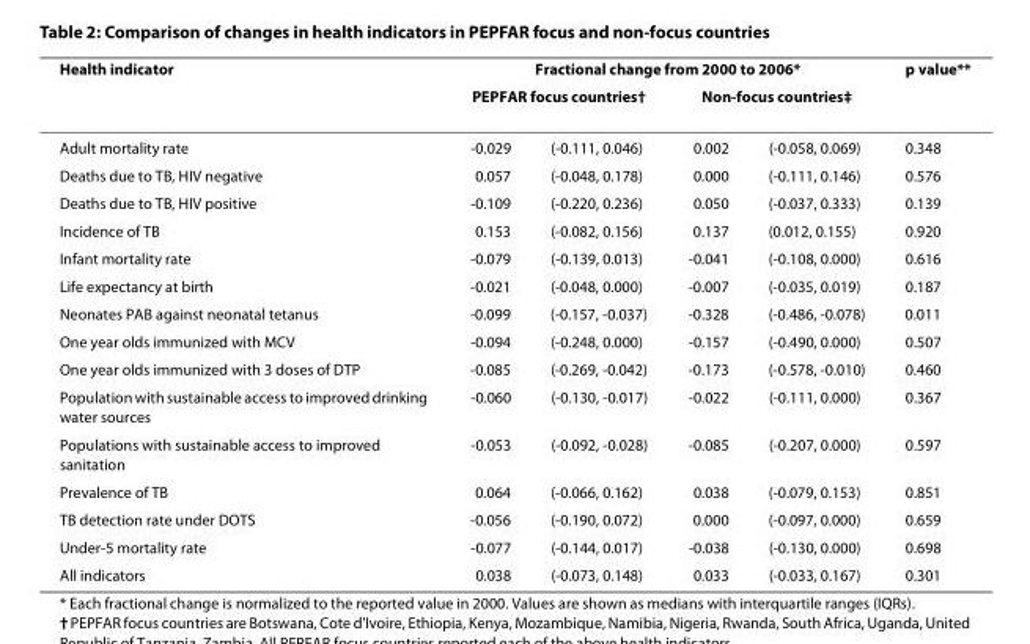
<table><thead><tr><td rowspan="3">Health indicator Adult mortality rate</td><td colspan="4">Fractional change from 2000 to 2006*</td><td rowspan="3">p value** 0.348</td></tr><tr><td colspan="2">PEPFAR focus countries†</td><td colspan="2">Non-focus countries‡</td></tr><tr><td>-0.029</td><td>(-0.111, 0.046)</td><td>0.002</td><td>(-0.058, 0.069)</td></tr></thead><tbody><tr><td>Deaths due to TB, HIV negative</td><td>0.057</td><td>(-0.048, 0.178)</td><td>0.000</td><td>(-0.111, 0.146)</td><td>0.576</td></tr><tr><td>Deaths due to TB, HIV positive</td><td>-0.109</td><td>(-0.220, 0.236)</td><td>0.050</td><td>(-0.037, 0.333)</td><td>0.139</td></tr><tr><td>Incidence of TB</td><td>0.153</td><td>(-0.082, 0.156)</td><td>0.137</td><td>(0.012, 0.155)</td><td>0.920</td></tr><tr><td>Infant mortality rate</td><td>-0.079</td><td>(-0.139, 0.013)</td><td>-0.041</td><td>(-0.108, 0.000)</td><td>0.616</td></tr><tr><td>Life expectancy at birth</td><td>-0.021</td><td>(-0.048, 0.000)</td><td>-0.007</td><td>(-0.035, 0.019)</td><td>0.187</td></tr><tr><td>Neonates PAB against neonatal tetanus</td><td>-0.099</td><td>(-0.157, -0.037)</td><td>-0.328</td><td>(-0.486, -0.078)</td><td>0.011</td></tr><tr><td>One year olds immunized with MCV</td><td>-0.094</td><td>(-0.248, 0.000)</td><td>-0.157</td><td>(-0.490, 0.000)</td><td>0.507</td></tr><tr><td>One year olds immunized with 3 doses of DTP</td><td>-0.085</td><td>(-0.269, -0.042)</td><td>-0.173</td><td>(-0.578, -0.010)</td><td>0.460</td></tr><tr><td>Population with sustainable access to improved drinking water sources</td><td>-0.060</td><td>(-0.130, -0.017)</td><td>-0.022</td><td>(-0.111, 0.000)</td><td>0.367</td></tr><tr><td>Populations with sustainable access to improved sanitation</td><td>-0.053</td><td>(-0.092, -0.028)</td><td>-0.085</td><td>(-0.207, 0.000)</td><td>0.597</td></tr><tr><td>Prevalence of TB</td><td>0.064</td><td>(-0.066, 0.162)</td><td>0.038</td><td>(-0.079, 0.153)</td><td>0.851</td></tr><tr><td>TB detection rate under DOTS</td><td>-0.056</td><td>(-0.190, 0.072)</td><td>0.000</td><td>(-0.097, 0.000)</td><td>0.659</td></tr><tr><td>Under-5 mortality rate</td><td>-0.077</td><td>(-0.144, 0.017)</td><td>-0.038</td><td>(-0.130, 0.000)</td><td>0.698</td></tr><tr><td>All indicators</td><td>0.038</td><td>(-0.073, 0.148)</td><td>0.033</td><td>(-0.033, 0.167)</td><td>0.301</td></tr></tbody></table>